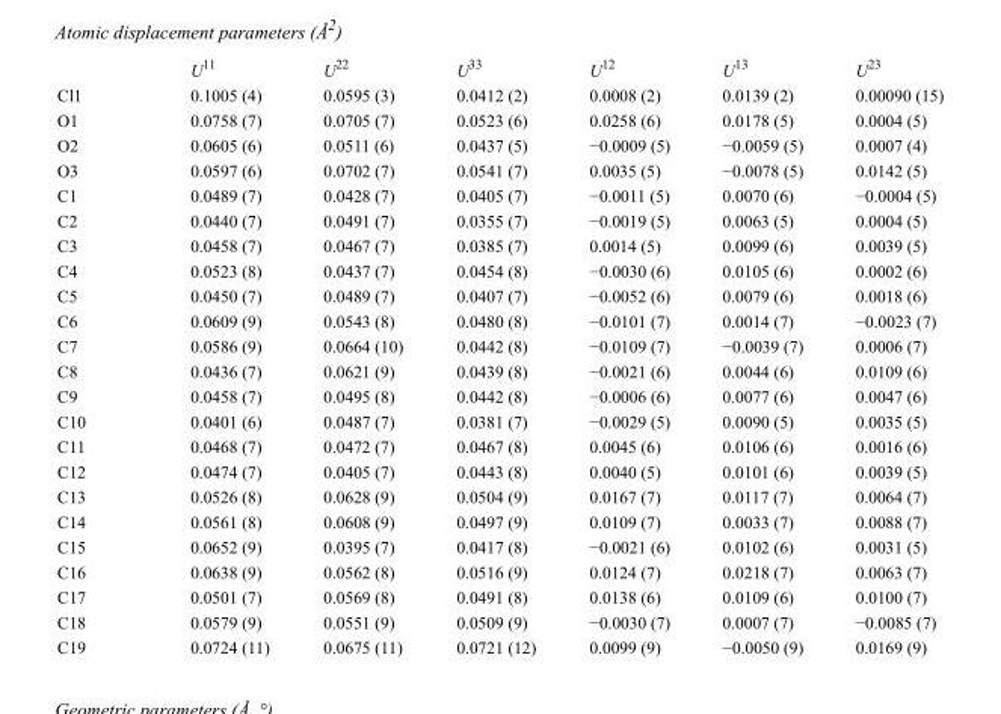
<table><thead><tr><td></td><td>U<sup>11</sup></td><td>U<sup>22</sup></td><td>U<sup>33</sup></td><td>U<sup>12</sup></td><td>U<sup>13</sup></td><td>U<sup>23</sup></td></tr></thead><tbody><tr><td>Cl1</td><td>0.1005 (4)</td><td>0.0595 (3)</td><td>0.0412 (2)</td><td>0.0008 (2)</td><td>0.0139 (2)</td><td>0.00090 (15)</td></tr><tr><td>O1</td><td>0.0758 (7)</td><td>0.0705 (7)</td><td>0.0523 (6)</td><td>0.0258 (6)</td><td>0.0178 (5)</td><td>0.0004 (5)</td></tr><tr><td>O2</td><td>0.0605 (6)</td><td>0.0511 (6)</td><td>0.0437 (5)</td><td>−0.0009 (5)</td><td>−0.0059 (5)</td><td>0.0007 (4)</td></tr><tr><td>O3</td><td>0.0597 (6)</td><td>0.0702 (7)</td><td>0.0541 (7)</td><td>0.0035 (5)</td><td>−0.0078 (5)</td><td>0.0142 (5)</td></tr><tr><td>C1</td><td>0.0489 (7)</td><td>0.0428 (7)</td><td>0.0405 (7)</td><td>−0.0011 (5)</td><td>0.0070 (6)</td><td>−0.0004 (5)</td></tr><tr><td>C2</td><td>0.0440 (7)</td><td>0.0491 (7)</td><td>0.0355 (7)</td><td>−0.0019 (5)</td><td>0.0063 (5)</td><td>0.0004 (5)</td></tr><tr><td>C3</td><td>0.0458 (7)</td><td>0.0467 (7)</td><td>0.0385 (7)</td><td>0.0014 (5)</td><td>0.0099 (6)</td><td>0.0039 (5)</td></tr><tr><td>C4</td><td>0.0523 (8)</td><td>0.0437 (7)</td><td>0.0454 (8)</td><td>−0.0030 (6)</td><td>0.0105 (6)</td><td>0.0002 (6)</td></tr><tr><td>C5</td><td>0.0450 (7)</td><td>0.0489 (7)</td><td>0.0407 (7)</td><td>−0.0052 (6)</td><td>0.0079 (6)</td><td>0.0018 (6)</td></tr><tr><td>C6</td><td>0.0609 (9)</td><td>0.0543 (8)</td><td>0.0480 (8)</td><td>−0.0101 (7)</td><td>0.0014 (7)</td><td>−0.0023 (7)</td></tr><tr><td>C7</td><td>0.0586 (9)</td><td>0.0664 (10)</td><td>0.0442 (8)</td><td>−0.0109 (7)</td><td>−0.0039 (7)</td><td>0.0006 (7)</td></tr><tr><td>C8</td><td>0.0436 (7)</td><td>0.0621 (9)</td><td>0.0439 (8)</td><td>−0.0021 (6)</td><td>0.0044 (6)</td><td>0.0109 (6)</td></tr><tr><td>C9</td><td>0.0458 (7)</td><td>0.0495 (8)</td><td>0.0442 (8)</td><td>−0.0006 (6)</td><td>0.0077 (6)</td><td>0.0047 (6)</td></tr><tr><td>C10</td><td>0.0401 (6)</td><td>0.0487 (7)</td><td>0.0381 (7)</td><td>−0.0029 (5)</td><td>0.0090 (5)</td><td>0.0035 (5)</td></tr><tr><td>C11</td><td>0.0468 (7)</td><td>0.0472 (7)</td><td>0.0467 (8)</td><td>0.0045 (6)</td><td>0.0106 (6)</td><td>0.0016 (6)</td></tr><tr><td>C12</td><td>0.0474 (7)</td><td>0.0405 (7)</td><td>0.0443 (8)</td><td>0.0040 (5)</td><td>0.0101 (6)</td><td>0.0039 (5)</td></tr><tr><td>C13</td><td>0.0526 (8)</td><td>0.0628 (9)</td><td>0.0504 (9)</td><td>0.0167 (7)</td><td>0.0117 (7)</td><td>0.0064 (7)</td></tr><tr><td>C14</td><td>0.0561 (8)</td><td>0.0608 (9)</td><td>0.0497 (9)</td><td>0.0109 (7)</td><td>0.0033 (7)</td><td>0.0088 (7)</td></tr><tr><td>C15</td><td>0.0652 (9)</td><td>0.0395 (7)</td><td>0.0417 (8)</td><td>−0.0021 (6)</td><td>0.0102 (6)</td><td>0.0031 (5)</td></tr><tr><td>C16</td><td>0.0638 (9)</td><td>0.0562 (8)</td><td>0.0516 (9)</td><td>0.0124 (7)</td><td>0.0218 (7)</td><td>0.0063 (7)</td></tr><tr><td>C17</td><td>0.0501 (7)</td><td>0.0569 (8)</td><td>0.0491 (8)</td><td>0.0138 (6)</td><td>0.0109 (6)</td><td>0.0100 (7)</td></tr><tr><td>C18</td><td>0.0579 (9)</td><td>0.0551 (9)</td><td>0.0509 (9)</td><td>−0.0030 (7)</td><td>0.0007 (7)</td><td>−0.0085 (7)</td></tr><tr><td>C19</td><td>0.0724 (11)</td><td>0.0675 (11)</td><td>0.0721 (12)</td><td>0.0099 (9)</td><td>−0.0050 (9)</td><td>0.0169 (9)</td></tr></tbody></table>